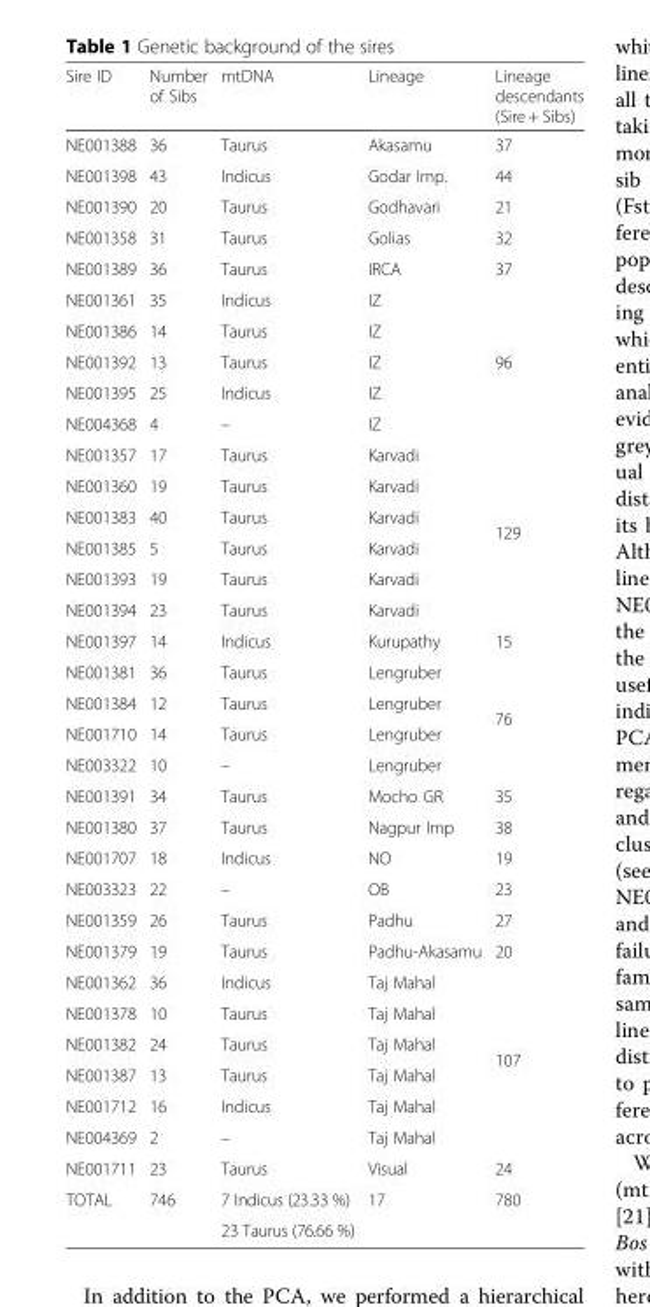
<table><thead><tr><td>Sire ID</td><td>Number of Sibs</td><td>mtDNA</td><td>Lineage</td><td>Lineage descendants (Sire + Sibs)</td></tr></thead><tbody><tr><td>NE001388</td><td>36</td><td>Taurus</td><td>Akasamu</td><td>37</td></tr><tr><td>NE001398</td><td>43</td><td>Indicus</td><td>Godar Imp.</td><td>44</td></tr><tr><td>NE001390</td><td>20</td><td>Taurus</td><td>Godhavari</td><td>21</td></tr><tr><td>NE001358</td><td>31</td><td>Taurus</td><td>Golias</td><td>32</td></tr><tr><td>NE001389</td><td>36</td><td>Taurus</td><td>IRCA</td><td>37</td></tr><tr><td>NE001361</td><td>35</td><td>Indicus</td><td>IZ</td><td rowspan="5">96</td></tr><tr><td>NE001386</td><td>14</td><td>Taurus</td><td>IZ</td></tr><tr><td>NE001392</td><td>13</td><td>Taurus</td><td>IZ</td></tr><tr><td>NE001395</td><td>25</td><td>Indicus</td><td>IZ</td></tr><tr><td>NE004368</td><td>4</td><td>–</td><td>IZ</td></tr><tr><td>NE001357</td><td>17</td><td>Taurus</td><td>Karvadi</td><td rowspan="6">129</td></tr><tr><td>NE001360</td><td>19</td><td>Taurus</td><td>Karvadi</td></tr><tr><td>NE001383</td><td>40</td><td>Taurus</td><td>Karvadi</td></tr><tr><td>NE001385</td><td>5</td><td>Taurus</td><td>Karvadi</td></tr><tr><td>NE001393</td><td>19</td><td>Taurus</td><td>Karvadi</td></tr><tr><td>NE001394</td><td>23</td><td>Taurus</td><td>Karvadi</td></tr><tr><td>NE001397</td><td>14</td><td>Indicus</td><td>Kurupathy</td><td>15</td></tr><tr><td>NE001381</td><td>36</td><td>Taurus</td><td>Lengruber</td><td rowspan="4">76</td></tr><tr><td>NE001384</td><td>12</td><td>Taurus</td><td>Lengruber</td></tr><tr><td>NE001710</td><td>14</td><td>Taurus</td><td>Lengruber</td></tr><tr><td>NE003322</td><td>10</td><td>–</td><td>Lengruber</td></tr><tr><td>NE001391</td><td>34</td><td>Taurus</td><td>Mocho GR</td><td>35</td></tr><tr><td>NE001380</td><td>37</td><td>Taurus</td><td>Nagpur Imp</td><td>38</td></tr><tr><td>NE001707</td><td>18</td><td>Indicus</td><td>NO</td><td>19</td></tr><tr><td>NE003323</td><td>22</td><td>–</td><td>OB</td><td>23</td></tr><tr><td>NE001359</td><td>26</td><td>Taurus</td><td>Padhu</td><td>27</td></tr><tr><td>NE001379</td><td>19</td><td>Taurus</td><td>Padhu-Akasamu</td><td>20</td></tr><tr><td>NE001362</td><td>36</td><td>Indicus</td><td>Taj Mahal</td><td rowspan="6">107</td></tr><tr><td>NE001378</td><td>10</td><td>Taurus</td><td>Taj Mahal</td></tr><tr><td>NE001382</td><td>24</td><td>Taurus</td><td>Taj Mahal</td></tr><tr><td>NE001387</td><td>13</td><td>Taurus</td><td>Taj Mahal</td></tr><tr><td>NE001712</td><td>16</td><td>Indicus</td><td>Taj Mahal</td></tr><tr><td>NE004369</td><td>2</td><td>–</td><td>Taj Mahal</td></tr><tr><td>NE001711</td><td>23</td><td>Taurus</td><td>Visual</td><td>24</td></tr><tr><td rowspan="2">TOTAL</td><td>746</td><td>7 Indicus (23.33 %)</td><td>17</td><td>780</td></tr><tr><td></td><td>23 Taurus (76.66 %)</td><td></td><td></td></tr></tbody></table>